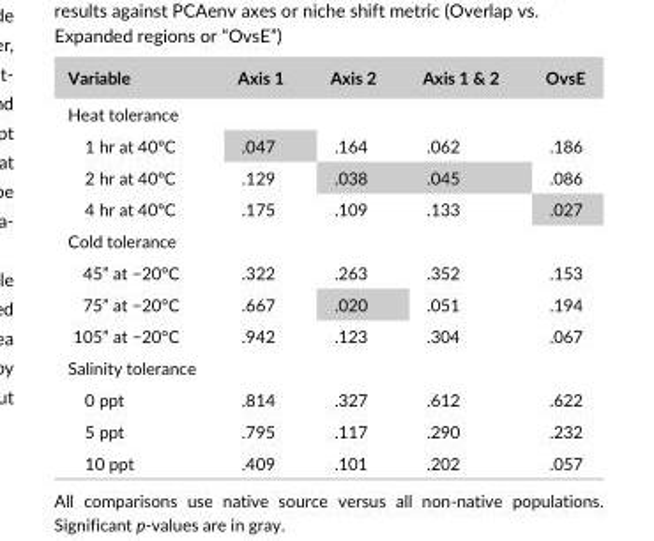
<table><thead><tr><td>Variable</td><td>Axis 1</td><td>Axis 2</td><td>Axis 1 &amp; 2</td><td>OvsE</td></tr></thead><tbody><tr><td colspan="5">Heat tolerance</td></tr><tr><td>1 hr at 40ºC</td><td>.047</td><td>.164</td><td>.062</td><td>.186</td></tr><tr><td>2 hr at 40ºC</td><td>.129</td><td>.038</td><td>.045</td><td>.086</td></tr><tr><td>4 hr at 40ºC</td><td>.175</td><td>.109</td><td>.133</td><td>.027</td></tr><tr><td colspan="5">Cold tolerance</td></tr><tr><td>45” at −20°C</td><td>.322</td><td>.263</td><td>.352</td><td>.153</td></tr><tr><td>75” at −20°C</td><td>.667</td><td>.020</td><td>.051</td><td>.194</td></tr><tr><td>105” at −20°C</td><td>.942</td><td>.123</td><td>.304</td><td>.067</td></tr><tr><td colspan="5">Salinity tolerance</td></tr><tr><td>0 ppt</td><td>.814</td><td>.327</td><td>.612</td><td>.622</td></tr><tr><td>5 ppt</td><td>.795</td><td>.117</td><td>.290</td><td>.232</td></tr><tr><td>10 ppt</td><td>.409</td><td>.101</td><td>.202</td><td>.057</td></tr></tbody></table>